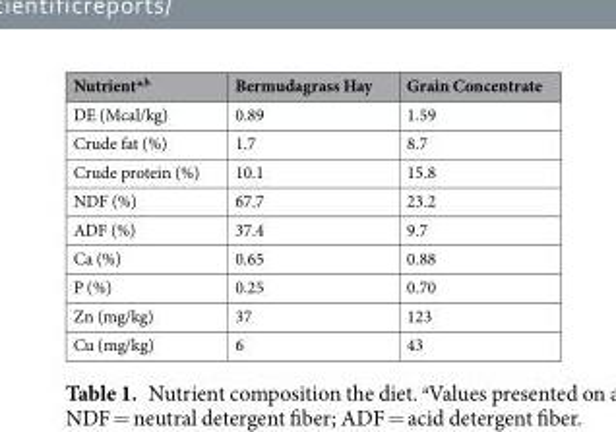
<table><thead><tr><td>Nutrient<sup>a,b</sup></td><td>Bermudagrass Hay</td><td>Grain Concentrate</td></tr></thead><tbody><tr><td>DE (Mcal/kg)</td><td>0.89</td><td>1.59</td></tr><tr><td>Crude fat (%)</td><td>1.7</td><td>8.7</td></tr><tr><td>Crude protein (%)</td><td>10.1</td><td>15.8</td></tr><tr><td>NDF (%)</td><td>67.7</td><td>23.2</td></tr><tr><td>ADF (%)</td><td>37.4</td><td>9.7</td></tr><tr><td>Ca (%)</td><td>0.65</td><td>0.88</td></tr><tr><td>P (%)</td><td>0.25</td><td>0.70</td></tr><tr><td>Zn (mg/kg)</td><td>37</td><td>123</td></tr><tr><td>Cu (mg/kg)</td><td>6</td><td>43</td></tr></tbody></table>